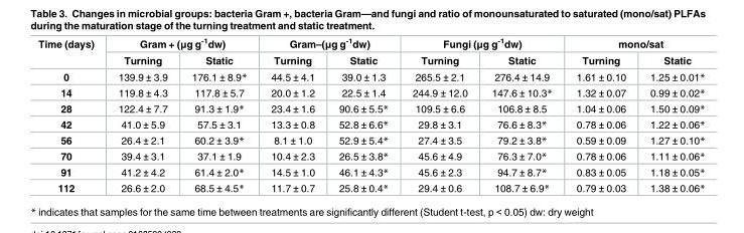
<table><thead><tr><td rowspan="2">Time (days)</td><td colspan="2">Gram + (μg g<sup>-1</sup>dw)</td><td colspan="2">Gram–(μg g<sup>-1</sup>dw)</td><td colspan="2">Fungi (μg g<sup>-1</sup>dw)</td><td colspan="2">mono/sat</td></tr><tr><td>Turning</td><td>Static</td><td>Turning</td><td>Static</td><td>Turning</td><td>Static</td><td>Turning</td><td>Static</td></tr></thead><tbody><tr><td>0</td><td>139.9 ± 3.9</td><td>176.1 ± 8.9*</td><td>44.5 ± 4.1</td><td>39.0 ± 1.3</td><td>265.5 ± 2.1</td><td>276.4 ± 14.9</td><td>1.61 ± 0.10</td><td>1.25 ± 0.01*</td></tr><tr><td>14</td><td>119.8 ± 4.3</td><td>117.8 ± 5.7</td><td>20.0 ± 1.2</td><td>22.5 ± 1.4</td><td>244.9 ± 12.0</td><td>147.6 ± 10.3*</td><td>1.32 ± 0.07</td><td>0.99 ± 0.02*</td></tr><tr><td>28</td><td>122.4 ± 7.7</td><td>91.3 ± 1.9*</td><td>23.4 ± 1.6</td><td>90.6 ± 5.5*</td><td>109.5 ± 6.6</td><td>106.8 ± 8.5</td><td>1.04 ± 0.06</td><td>1.50 ± 0.09*</td></tr><tr><td>42</td><td>41.0 ± 5.9</td><td>57.5 ± 3.1</td><td>13.3 ± 0.8</td><td>52.8 ± 6.6*</td><td>29.8 ± 3.1</td><td>76.6 ± 8.3*</td><td>0.78 ± 0.06</td><td>1.22 ± 0.06*</td></tr><tr><td>56</td><td>26.4 ± 2.1</td><td>60.2 ± 3.9*</td><td>8.1 ± 1.0</td><td>52.9 ± 5.4*</td><td>27.4 ± 3.5</td><td>79.2 ± 3.8*</td><td>0.59 ± 0.09</td><td>1.27 ± 0.10*</td></tr><tr><td>70</td><td>39.4 ± 3.1</td><td>37.1 ± 1.9</td><td>10.4 ± 2.3</td><td>26.5 ± 3.8*</td><td>45.6 ± 4.9</td><td>76.3 ± 7.0*</td><td>0.78 ± 0.06</td><td>1.11 ± 0.06*</td></tr><tr><td>91</td><td>41.2 ± 4.2</td><td>61.4 ± 2.0*</td><td>14.5 ± 1.0</td><td>46.1 ± 4.3*</td><td>45.6 ± 2.3</td><td>94.7 ± 8.7*</td><td>0.83 ± 0.05</td><td>1.18 ± 0.05*</td></tr><tr><td>112</td><td>26.6 ± 2.0</td><td>68.5 ± 4.5*</td><td>11.7 ± 0.7</td><td>25.8 ± 0.4*</td><td>29.4 ± 0.6</td><td>108.7 ± 6.9*</td><td>0.79 ± 0.03</td><td>1.38 ± 0.06*</td></tr></tbody></table>